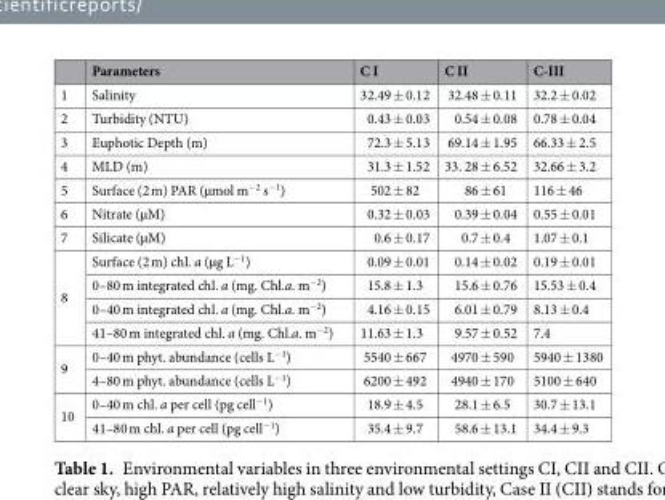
<table><thead><tr><td></td><td>Parameters</td><td>C I</td><td>C II</td><td>C-III</td></tr></thead><tbody><tr><td>1</td><td>Salinity</td><td>32.49 ± 0.12</td><td>32.48 ± 0.11</td><td>32.2 ± 0.02</td></tr><tr><td>2</td><td>Turbidity (NTU)</td><td>0.43 ± 0.03</td><td>0.54 ± 0.08</td><td>0.78 ± 0.04</td></tr><tr><td>3</td><td>Euphotic Depth (m)</td><td>72.3 ± 5.13</td><td>69.14 ± 1.95</td><td>66.33 ± 2.5</td></tr><tr><td>4</td><td>MLD (m)</td><td>31.3 ± 1.52</td><td>33. 28 ± 6.52</td><td>32.66 ± 3.2</td></tr><tr><td>5</td><td>Surface (2 m) PAR (µmol m<sup>−2</sup> s<sup>−1</sup>)</td><td>502 ± 82</td><td>86 ± 61</td><td>116 ± 46</td></tr><tr><td>6</td><td>Nitrate (µM)</td><td>0.32 ± 0.03</td><td>0.39 ± 0.04</td><td>0.55 ± 0.01</td></tr><tr><td>7</td><td>Silicate (µM)</td><td>0.6 ± 0.17</td><td>0.7 ± 0.4</td><td>1.07 ± 0.1</td></tr><tr><td rowspan="4">8</td><td>Surface (2 m) chl. a (µg L<sup>−1</sup>)</td><td>0.09 ± 0.01</td><td>0.14 ± 0.02</td><td>0.19 ± 0.01</td></tr><tr><td>0–80 m integrated chl. a (mg. Chl.a. m<sup>−2</sup>)</td><td>15.8 ± 1.3</td><td>15.6 ± 0.76</td><td>15.53 ± 0.4</td></tr><tr><td>0–40 m integrated chl. a (mg. Chl.a. m<sup>−2</sup>)</td><td>4.16 ± 0.15</td><td>6.01 ± 0.79</td><td>8.13 ± 0.4</td></tr><tr><td>41–80 m integrated chl. a (mg. Chl.a. m<sup>−2</sup>)</td><td>11.63 ± 1.3</td><td>9.57 ± 0.52</td><td>7.4</td></tr><tr><td rowspan="2">9</td><td>0–40 m phyt. abundance (cells L<sup>−1</sup>)</td><td>5540 ± 667</td><td>4970 ± 590</td><td>5940 ± 1380</td></tr><tr><td>4–80 m phyt. abundance (cells L<sup>−1</sup>)</td><td>6200 ± 492</td><td>4940 ± 170</td><td>5100 ± 640</td></tr><tr><td rowspan="2">10</td><td>0–40 m chl. a per cell (pg cell<sup>−1</sup>)</td><td>18.9 ± 4.5</td><td>28.1 ± 6.5</td><td>30.7 ± 13.1</td></tr><tr><td>41–80 m chl. a per cell (pg cell<sup>−1</sup>)</td><td>35.4 ± 9.7</td><td>58.6 ± 13.1</td><td>34.4 ± 9.3</td></tr></tbody></table>